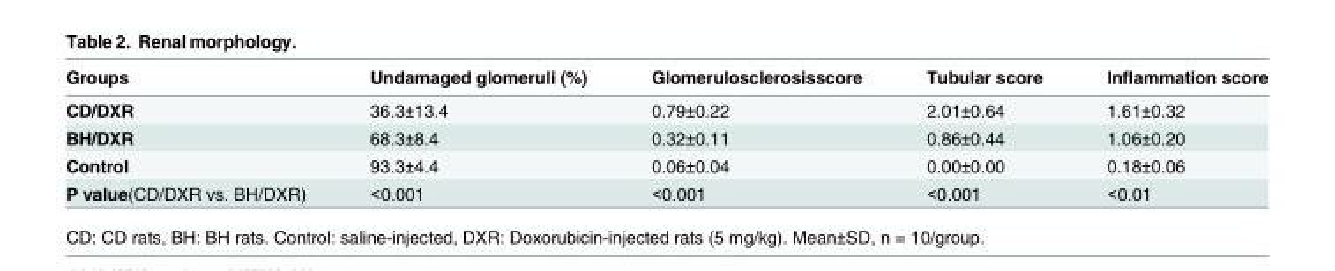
<table><thead><tr><td>Groups</td><td>Undamaged glomeruli (%)</td><td>Glomerulosclerosisscore</td><td>Tubular score</td><td>Inflammation score</td></tr></thead><tbody><tr><td>CD/DXR</td><td>36.3±13.4</td><td>0.79±0.22</td><td>2.01±0.64</td><td>1.61±0.32</td></tr><tr><td>BH/DXR</td><td>68.3±8.4</td><td>0.32±0.11</td><td>0.86±0.44</td><td>1.06±0.20</td></tr><tr><td>Control</td><td>93.3±4.4</td><td>0.06±0.04</td><td>0.00±0.00</td><td>0.18±0.06</td></tr><tr><td>P value(CD/DXR vs. BH/DXR)</td><td>&lt;0.001</td><td>&lt;0.001</td><td>&lt;0.001</td><td>&lt;0.01</td></tr></tbody></table>